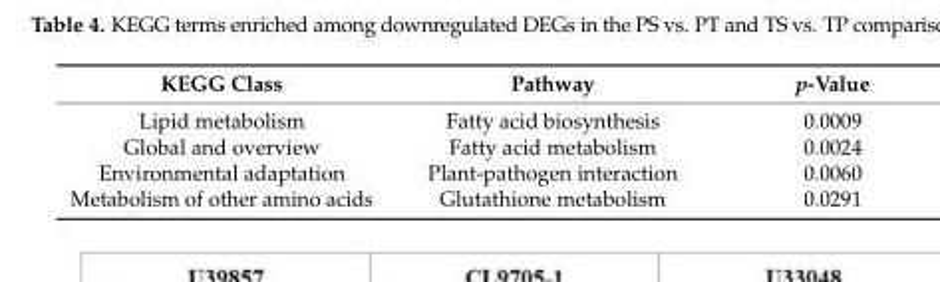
<table><thead><tr><td>KEGG Class</td><td>Pathway</td><td>p-Value</td></tr></thead><tbody><tr><td>Lipid metabolism</td><td>Fatty acid biosynthesis</td><td>0.0009</td></tr><tr><td>Global and overview</td><td>Fatty acid metabolism</td><td>0.0024</td></tr><tr><td>Environmental adaptation</td><td>Plant-pathogen interaction</td><td>0.0060</td></tr><tr><td>Metabolism of other amino acids</td><td>Glutathione metabolism</td><td>0.0291</td></tr></tbody></table>